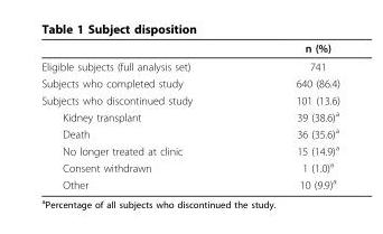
<table><thead><tr><td></td><td>n (%)</td></tr></thead><tbody><tr><td>Eligible subjects (full analysis set)</td><td>741</td></tr><tr><td>Subjects who completed study</td><td>640 (86.4)</td></tr><tr><td>Subjects who discontinued study</td><td>101 (13.6)</td></tr><tr><td>Kidney transplant</td><td>39 (38.6)<sup>a</sup></td></tr><tr><td>Death</td><td>36 (35.6)<sup>a</sup></td></tr><tr><td>No longer treated at clinic</td><td>15 (14.9)<sup>a</sup></td></tr><tr><td>Consent withdrawn</td><td>1 (1.0)<sup>a</sup></td></tr><tr><td>Other</td><td>10 (9.9)<sup>a</sup></td></tr></tbody></table>